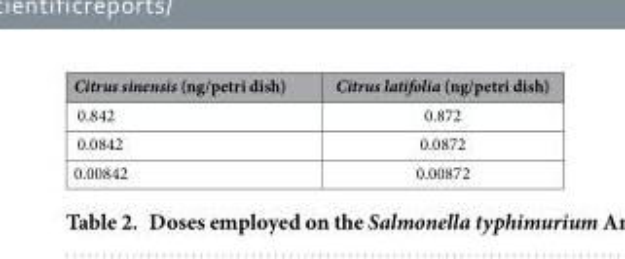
<table><thead><tr><td>Citrus sinensis (ng/petri dish)</td><td>Citrus latifolia (ng/petri dish)</td></tr></thead><tbody><tr><td>0.842</td><td>0.872</td></tr><tr><td>0.0842</td><td>0.0872</td></tr><tr><td>0.00842</td><td>0.00872</td></tr></tbody></table>